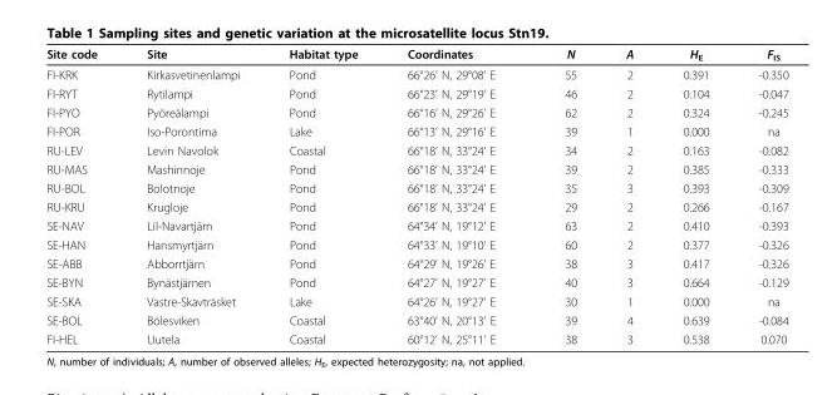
<table><thead><tr><td>Site code</td><td>Site</td><td>Habitat type</td><td>Coordinates</td><td>N</td><td>A</td><td>H<sub>E</sub></td><td>F<sub>IS</sub></td></tr></thead><tbody><tr><td>FI-KRK</td><td>Kirkasvetinenlampi</td><td>Pond</td><td>66°26’ N, 29°08’ E</td><td>55</td><td>2</td><td>0.391</td><td>-0.350</td></tr><tr><td>FI-RYT</td><td>Rytilampi</td><td>Pond</td><td>66°23’ N, 29°19’ E</td><td>46</td><td>2</td><td>0.104</td><td>-0.047</td></tr><tr><td>FI-PYO</td><td>Pyöreälampi</td><td>Pond</td><td>66°16’ N, 29°26’ E</td><td>62</td><td>2</td><td>0.324</td><td>-0.245</td></tr><tr><td>FI-POR</td><td>Iso-Porontima</td><td>Lake</td><td>66°13’ N, 29°16’ E</td><td>39</td><td>1</td><td>0.000</td><td>na</td></tr><tr><td>RU-LEV</td><td>Levin Navolok</td><td>Coastal</td><td>66°18’ N, 33°24’ E</td><td>34</td><td>2</td><td>0.163</td><td>-0.082</td></tr><tr><td>RU-MAS</td><td>Mashinnoje</td><td>Pond</td><td>66°18’ N, 33°24’ E</td><td>39</td><td>2</td><td>0.385</td><td>-0.333</td></tr><tr><td>RU-BOL</td><td>Bolotnoje</td><td>Pond</td><td>66°18’ N, 33°24’ E</td><td>35</td><td>3</td><td>0.393</td><td>-0.309</td></tr><tr><td>RU-KRU</td><td>Krugloje</td><td>Pond</td><td>66°18’ N, 33°24’ E</td><td>29</td><td>2</td><td>0.266</td><td>-0.167</td></tr><tr><td>SE-NAV</td><td>Lil-Navartjärn</td><td>Pond</td><td>64°34’ N, 19°12’ E</td><td>63</td><td>2</td><td>0.410</td><td>-0.393</td></tr><tr><td>SE-HAN</td><td>Hansmyrtjärn</td><td>Pond</td><td>64°33’ N, 19°10’ E</td><td>60</td><td>2</td><td>0.377</td><td>-0.326</td></tr><tr><td>SE-ABB</td><td>Abborrtjärn</td><td>Pond</td><td>64°29’ N, 19°26’ E</td><td>38</td><td>3</td><td>0.417</td><td>-0.326</td></tr><tr><td>SE-BYN</td><td>Bynästjärnen</td><td>Pond</td><td>64°27’ N, 19°27’ E</td><td>40</td><td>3</td><td>0.664</td><td>-0.129</td></tr><tr><td>SE-SKA</td><td>Vastre-Skavträsket</td><td>Lake</td><td>64°26’ N, 19°27’ E</td><td>30</td><td>1</td><td>0.000</td><td>na</td></tr><tr><td>SE-BOL</td><td>Bölesviken</td><td>Coastal</td><td>63°40’ N, 20°13’ E</td><td>39</td><td>4</td><td>0.639</td><td>-0.084</td></tr><tr><td>FI-HEL</td><td>Uutela</td><td>Coastal</td><td>60°12’ N, 25°11’ E</td><td>38</td><td>3</td><td>0.538</td><td>0.070</td></tr></tbody></table>